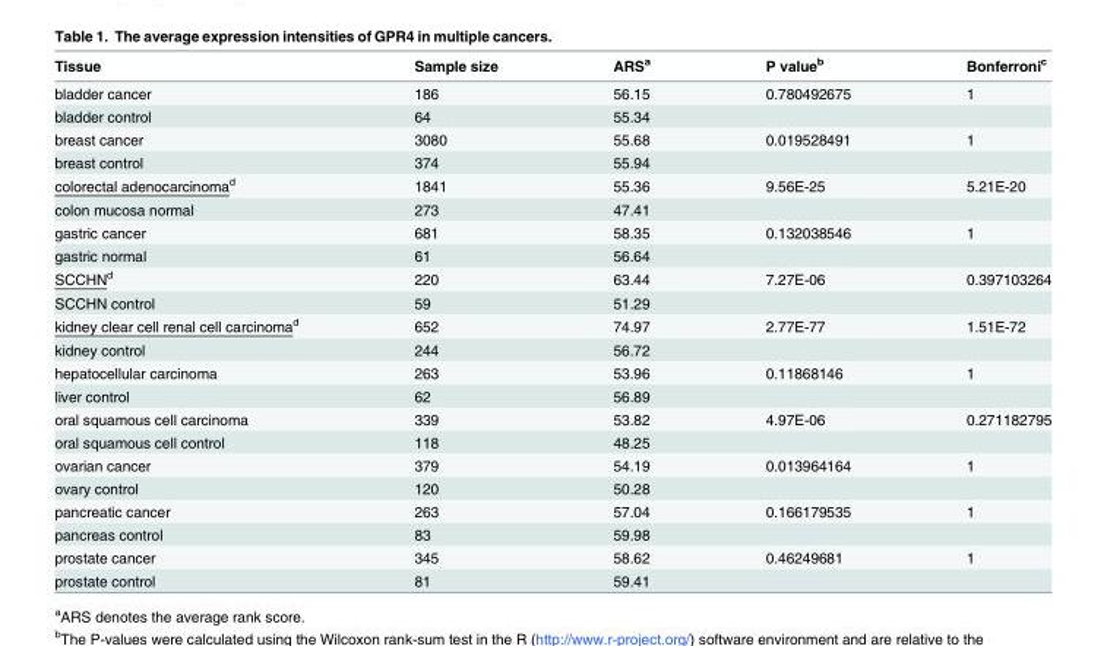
<table><thead><tr><td>Tissue</td><td>Sample size</td><td>ARS<sup>a</sup></td><td>P value<sup>b</sup></td><td>Bonferroni<sup>c</sup></td></tr></thead><tbody><tr><td>bladder cancer</td><td>186</td><td>56.15</td><td>0.780492675</td><td>1</td></tr><tr><td>bladder control</td><td>64</td><td>55.34</td><td></td><td></td></tr><tr><td>breast cancer</td><td>3080</td><td>55.68</td><td>0.019528491</td><td>1</td></tr><tr><td>breast control</td><td>374</td><td>55.94</td><td></td><td></td></tr><tr><td>colorectal adenocarcinoma<sup>d</sup></td><td>1841</td><td>55.36</td><td>9.56E-25</td><td>5.21E-20</td></tr><tr><td>colon mucosa normal</td><td>273</td><td>47.41</td><td></td><td></td></tr><tr><td>gastric cancer</td><td>681</td><td>58.35</td><td>0.132038546</td><td>1</td></tr><tr><td>gastric normal</td><td>61</td><td>56.64</td><td></td><td></td></tr><tr><td>SCCHN<sup>d</sup></td><td>220</td><td>63.44</td><td>7.27E-06</td><td>0.397103264</td></tr><tr><td>SCCHN control</td><td>59</td><td>51.29</td><td></td><td></td></tr><tr><td>kidney clear cell renal cell carcinoma<sup>d</sup></td><td>652</td><td>74.97</td><td>2.77E-77</td><td>1.51E-72</td></tr><tr><td>kidney control</td><td>244</td><td>56.72</td><td></td><td></td></tr><tr><td>hepatocellular carcinoma</td><td>263</td><td>53.96</td><td>0.11868146</td><td>1</td></tr><tr><td>liver control</td><td>62</td><td>56.89</td><td></td><td></td></tr><tr><td>oral squamous cell carcinoma</td><td>339</td><td>53.82</td><td>4.97E-06</td><td>0.271182795</td></tr><tr><td>oral squamous cell control</td><td>118</td><td>48.25</td><td></td><td></td></tr><tr><td>ovarian cancer</td><td>379</td><td>54.19</td><td>0.013964164</td><td>1</td></tr><tr><td>ovary control</td><td>120</td><td>50.28</td><td></td><td></td></tr><tr><td>pancreatic cancer</td><td>263</td><td>57.04</td><td>0.166179535</td><td>1</td></tr><tr><td>pancreas control</td><td>83</td><td>59.98</td><td></td><td></td></tr><tr><td>prostate cancer</td><td>345</td><td>58.62</td><td>0.46249681</td><td>1</td></tr><tr><td>prostate control</td><td>81</td><td>59.41</td><td></td><td></td></tr></tbody></table>